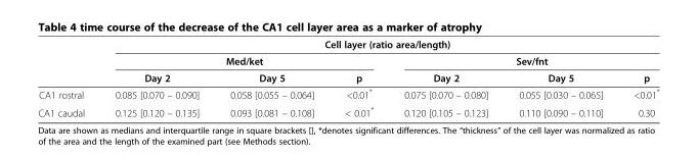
<table><thead><tr><td rowspan="3"></td><td colspan="6">Cell layer (ratio area/length)</td></tr><tr><td rowspan="2">Day 2</td><td rowspan="2">Med/ket Day 5</td><td rowspan="2">p</td><td rowspan="2">Day 2</td><td rowspan="2">Sev/fnt Day 5</td><td rowspan="2">p</td></tr><tr></tr></thead><tbody><tr><td>CA1 rostral</td><td>0.085 [0.070 – 0.090]</td><td>0.058 [0.055 – 0.064]</td><td>&lt;0.01*</td><td>0.075 [0.070 – 0.080]</td><td>0.055 [0.030 – 0.065]</td><td>&lt;0.01*</td></tr><tr><td>CA1 caudal</td><td>0.125 [0.120 – 0.135]</td><td>0.093 [0.081 – 0.108]</td><td>&lt; 0.01*</td><td>0.120 [0.105 – 0.123]</td><td>0.110 [0.090 – 0.110]</td><td>0.30</td></tr></tbody></table>